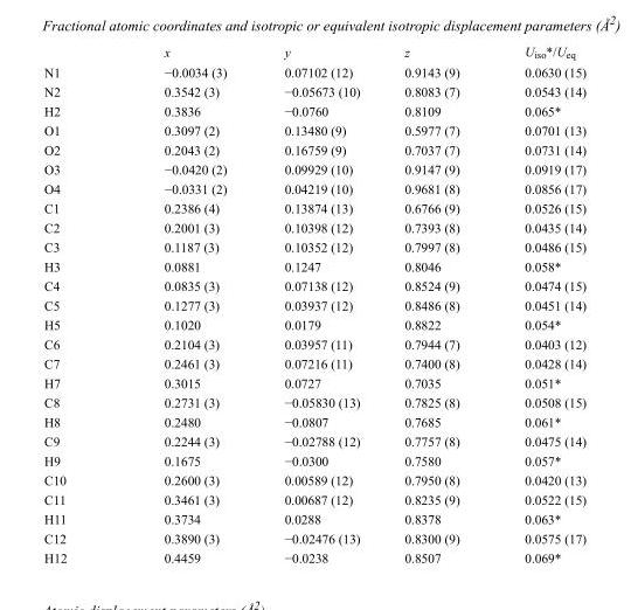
<table><thead><tr><td></td><td>x</td><td>y</td><td>z</td><td>U<sub>iso</sub>*/U<sub>eq</sub></td></tr></thead><tbody><tr><td>N1</td><td>−0.0034 (3)</td><td>0.07102 (12)</td><td>0.9143 (9)</td><td>0.0630 (15)</td></tr><tr><td>N2</td><td>0.3542 (3)</td><td>−0.05673 (10)</td><td>0.8083 (7)</td><td>0.0543 (14)</td></tr><tr><td>H2</td><td>0.3836</td><td>−0.0760</td><td>0.8109</td><td>0.065*</td></tr><tr><td>O1</td><td>0.3097 (2)</td><td>0.13480 (9)</td><td>0.5977 (7)</td><td>0.0701 (13)</td></tr><tr><td>O2</td><td>0.2043 (2)</td><td>0.16759 (9)</td><td>0.7037 (7)</td><td>0.0731 (14)</td></tr><tr><td>O3</td><td>−0.0420 (2)</td><td>0.09929 (10)</td><td>0.9147 (9)</td><td>0.0919 (17)</td></tr><tr><td>O4</td><td>−0.0331 (2)</td><td>0.04219 (10)</td><td>0.9681 (8)</td><td>0.0856 (17)</td></tr><tr><td>C1</td><td>0.2386 (4)</td><td>0.13874 (13)</td><td>0.6766 (9)</td><td>0.0526 (15)</td></tr><tr><td>C2</td><td>0.2001 (3)</td><td>0.10398 (12)</td><td>0.7393 (8)</td><td>0.0435 (14)</td></tr><tr><td>C3</td><td>0.1187 (3)</td><td>0.10352 (12)</td><td>0.7997 (8)</td><td>0.0486 (15)</td></tr><tr><td>H3</td><td>0.0881</td><td>0.1247</td><td>0.8046</td><td>0.058*</td></tr><tr><td>C4</td><td>0.0835 (3)</td><td>0.07138 (12)</td><td>0.8524 (9)</td><td>0.0474 (15)</td></tr><tr><td>C5</td><td>0.1277 (3)</td><td>0.03937 (12)</td><td>0.8486 (8)</td><td>0.0451 (14)</td></tr><tr><td>H5</td><td>0.1020</td><td>0.0179</td><td>0.8822</td><td>0.054*</td></tr><tr><td>C6</td><td>0.2104 (3)</td><td>0.03957 (11)</td><td>0.7944 (7)</td><td>0.0403 (12)</td></tr><tr><td>C7</td><td>0.2461 (3)</td><td>0.07216 (11)</td><td>0.7400 (8)</td><td>0.0428 (14)</td></tr><tr><td>H7</td><td>0.3015</td><td>0.0727</td><td>0.7035</td><td>0.051*</td></tr><tr><td>C8</td><td>0.2731 (3)</td><td>−0.05830 (13)</td><td>0.7825 (8)</td><td>0.0508 (15)</td></tr><tr><td>H8</td><td>0.2480</td><td>−0.0807</td><td>0.7685</td><td>0.061*</td></tr><tr><td>C9</td><td>0.2244 (3)</td><td>−0.02788 (12)</td><td>0.7757 (8)</td><td>0.0475 (14)</td></tr><tr><td>H9</td><td>0.1675</td><td>−0.0300</td><td>0.7580</td><td>0.057*</td></tr><tr><td>C10</td><td>0.2600 (3)</td><td>0.00589 (12)</td><td>0.7950 (8)</td><td>0.0420 (13)</td></tr><tr><td>C11</td><td>0.3461 (3)</td><td>0.00687 (12)</td><td>0.8235 (9)</td><td>0.0522 (15)</td></tr><tr><td>H11</td><td>0.3734</td><td>0.0288</td><td>0.8378</td><td>0.063*</td></tr><tr><td>C12</td><td>0.3890 (3)</td><td>−0.02476 (13)</td><td>0.8300 (9)</td><td>0.0575 (17)</td></tr><tr><td>H12</td><td>0.4459</td><td>−0.0238</td><td>0.8507</td><td>0.069*</td></tr></tbody></table>